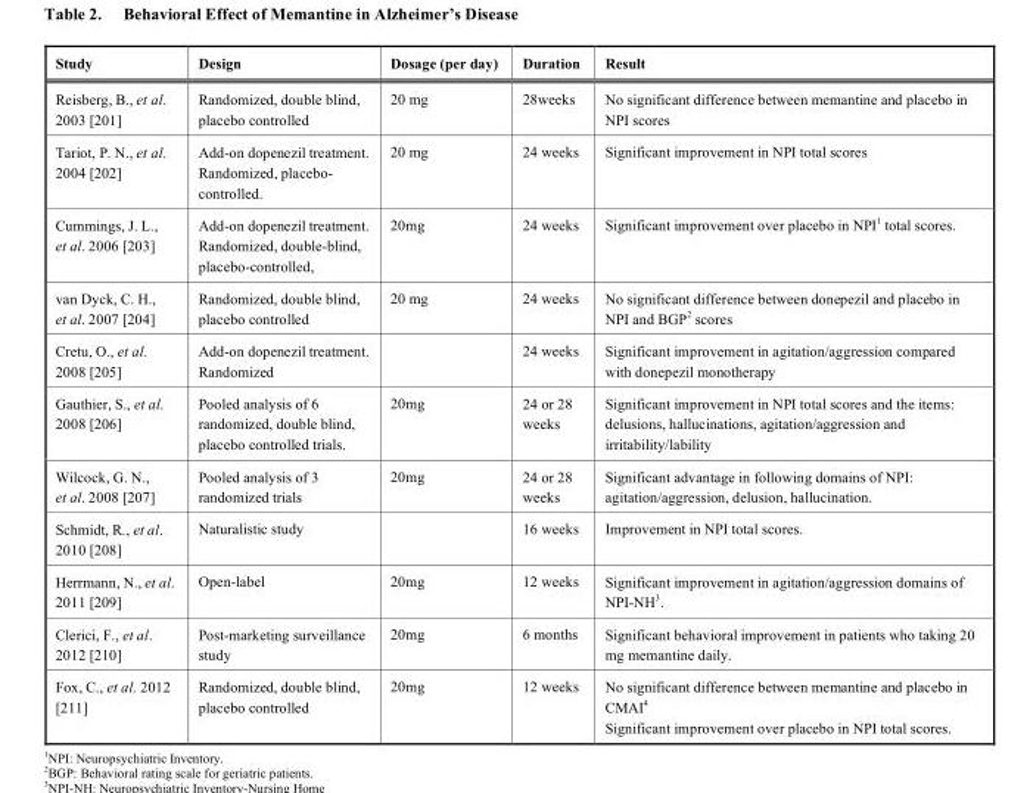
<table><thead><tr><td>Study</td><td>Design</td><td>Dosage (per day)</td><td>Duration</td><td>Result</td></tr></thead><tbody><tr><td>Reisberg, B., et al. 2003 [201]</td><td>Randomized, double blind, placebo controlled</td><td>20 mg</td><td>28weeks</td><td>No significant difference between memantine and placebo in NPI scores</td></tr><tr><td>Tariot, P. N., et al. 2004 [202]</td><td>Add-on dopenezil treatment. Randomized, placebo- controlled.</td><td>20 mg</td><td>24 weeks</td><td>Significant improvement in NPI total scores</td></tr><tr><td>Cummings, J. L., et al. 2006 [203]</td><td>Add-on dopenezil treatment. Randomized, double-blind, placebo-controlled,</td><td>20mg</td><td>24 weeks</td><td>Significant improvement over placebo in NPI<sup>1</sup> total scores.</td></tr><tr><td>van Dyck, C. H., et al. 2007 [204]</td><td>Randomized, double blind, placebo controlled</td><td>20 mg</td><td>24 weeks</td><td>No significant difference between donepezil and placebo in NPI and BGP<sup>2</sup> scores</td></tr><tr><td>Cretu, O., et al. 2008 [205]</td><td>Add-on dopenezil treatment. Randomized</td><td></td><td>24 weeks</td><td>Significant improvement in agitation/aggression compared with donepezil monotherapy</td></tr><tr><td>Gauthier, S., et al. 2008 [206]</td><td>Pooled analysis of 6 randomized, double blind, placebo controlled trials.</td><td>20mg</td><td>24 or 28 weeks</td><td>Significant improvement in NPI total scores and the items: delusions, hallucinations, agitation/aggression and irritability/lability</td></tr><tr><td>Wilcock, G. N., et al. 2008 [207]</td><td>Pooled analysis of 3 randomized trials</td><td>20mg</td><td>24 or 28 weeks</td><td>Significant advantage in following domains of NPI: agitation/aggression, delusion, hallucination.</td></tr><tr><td>Schmidt, R., et al. 2010 [208]</td><td>Naturalistic study</td><td></td><td>16 weeks</td><td>Improvement in NPI total scores.</td></tr><tr><td>Herrmann, N., et al. 2011 [209]</td><td>Open-label</td><td>20mg</td><td>12 weeks</td><td>Significant improvement in agitation/aggression domains of NPI-NH<sup>3</sup>.</td></tr><tr><td>Clerici, F., et al. 2012 [210]</td><td>Post-marketing surveillance study</td><td>20mg</td><td>6 months</td><td>Significant behavioral improvement in patients who taking 20 mg memantine daily.</td></tr><tr><td>Fox, C., et al. 2012 [211]</td><td>Randomized, double blind, placebo controlled</td><td>20mg</td><td>12 weeks</td><td>No significant difference between memantine and placebo in CMAI<sup>4</sup> Significant improvement over placebo in NPI total scores.</td></tr></tbody></table>